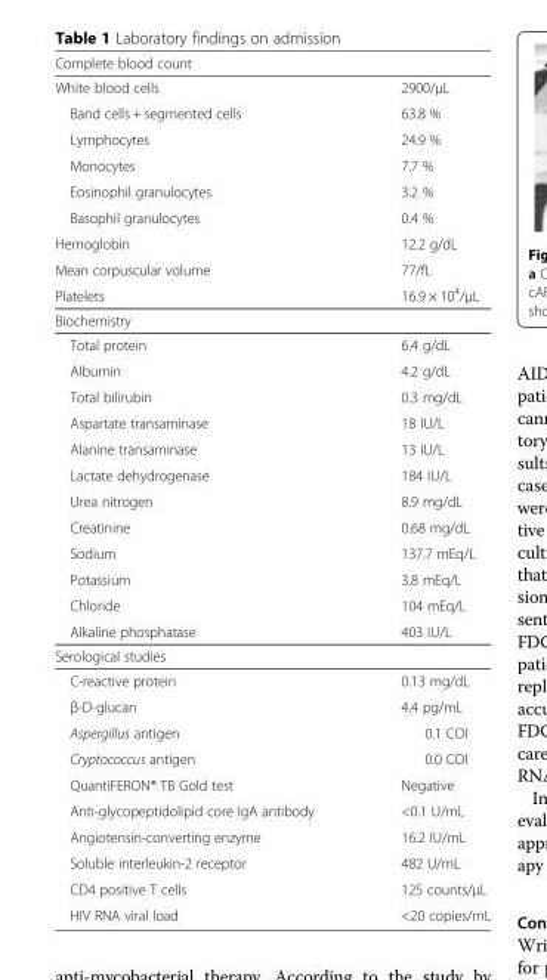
<table><thead><tr><td colspan="2">Complete blood count</td></tr><tr><td>White blood cells</td><td>2900/μL</td></tr></thead><tbody><tr><td>Band cells + segmented cells</td><td>63.8 %</td></tr><tr><td>Lymphocytes</td><td>24.9 %</td></tr><tr><td>Monocytes</td><td>7.7 %</td></tr><tr><td>Eosinophil granulocytes</td><td>3.2 %</td></tr><tr><td>Basophil granulocytes</td><td>0.4 %</td></tr><tr><td>Hemoglobin</td><td>12.2 g/dL</td></tr><tr><td>Mean corpuscular volume</td><td>77/fL</td></tr><tr><td>Platelets</td><td>16.9 × 10<sup>4</sup>/μL</td></tr><tr><td colspan="2">Biochemistry</td></tr><tr><td>Total protein</td><td>6.4 g/dL</td></tr><tr><td>Albumin</td><td>4.2 g/dL</td></tr><tr><td>Total bilirubin</td><td>0.3 mg/dL</td></tr><tr><td>Aspartate transaminase</td><td>18 IU/L</td></tr><tr><td>Alanine transaminase</td><td>13 IU/L</td></tr><tr><td>Lactate dehydrogenase</td><td>184 IU/L</td></tr><tr><td>Urea nitrogen</td><td>8.9 mg/dL</td></tr><tr><td>Creatinine</td><td>0.68 mg/dL</td></tr><tr><td>Sodium</td><td>137.7 mEq/L</td></tr><tr><td>Potassium</td><td>3.8 mEq/L</td></tr><tr><td>Chloride</td><td>104 mEq/L</td></tr><tr><td>Alkaline phosphatase</td><td>403 IU/L</td></tr><tr><td colspan="2">Serological studies</td></tr><tr><td>C-reactive protein</td><td>0.13 mg/dL</td></tr><tr><td>β-D-glucan</td><td>4.4 pg/mL</td></tr><tr><td>Aspergillus antigen</td><td>0.1 COI</td></tr><tr><td>Cryptococcus antigen</td><td>0.0 COI</td></tr><tr><td>QuantiFERON® TB Gold test</td><td>Negative</td></tr><tr><td>Anti-glycopeptidolipid core IgA antibody</td><td>&lt;0.1 U/mL</td></tr><tr><td>Angiotensin-converting enzyme</td><td>16.2 IU/mL</td></tr><tr><td>Soluble interleukin-2 receptor</td><td>482 U/mL</td></tr><tr><td>CD4 positive T cells</td><td>125 counts/μL</td></tr><tr><td>HIV RNA viral load</td><td>&lt;20 copies/mL</td></tr></tbody></table>